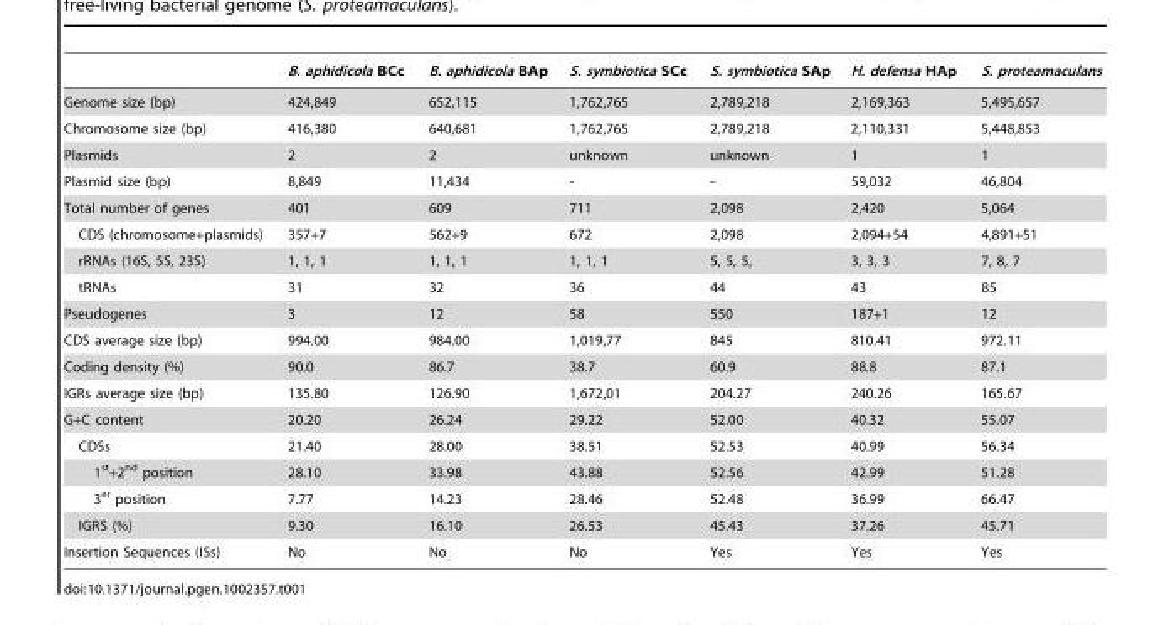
<table><thead><tr><td></td><td>B. aphidicola BCc</td><td>B. aphidicola BAp</td><td>S. symbiotica SCc</td><td>S. symbiotica SAp</td><td>H. defensa HAp</td><td>S. proteamaculans</td></tr></thead><tbody><tr><td>Genome size (bp)</td><td>424,849</td><td>652,115</td><td>1,762,765</td><td>2,789,218</td><td>2,169,363</td><td>5,495,657</td></tr><tr><td>Chromosome size (bp)</td><td>416,380</td><td>640,681</td><td>1,762,765</td><td>2,789,218</td><td>2,110,331</td><td>5,448,853</td></tr><tr><td>Plasmids</td><td>2</td><td>2</td><td>unknown</td><td>unknown</td><td>1</td><td>1</td></tr><tr><td>Plasmid size (bp)</td><td>8,849</td><td>11,434</td><td>-</td><td>-</td><td>59,032</td><td>46,804</td></tr><tr><td>Total number of genes</td><td>401</td><td>609</td><td>711</td><td>2,098</td><td>2,420</td><td>5,064</td></tr><tr><td>CDS (chromosome+plasmids)</td><td>357+7</td><td>562+9</td><td>672</td><td>2,098</td><td>2,094+54</td><td>4,891+51</td></tr><tr><td>rRNAs (16S, 5S, 23S)</td><td>1, 1, 1</td><td>1, 1, 1</td><td>1, 1, 1</td><td>5, 5, 5,</td><td>3, 3, 3</td><td>7, 8, 7</td></tr><tr><td>tRNAs</td><td>31</td><td>32</td><td>36</td><td>44</td><td>43</td><td>85</td></tr><tr><td>Pseudogenes</td><td>3</td><td>12</td><td>58</td><td>550</td><td>187+1</td><td>12</td></tr><tr><td>CDS average size (bp)</td><td>994.00</td><td>984.00</td><td>1,019,77</td><td>845</td><td>810.41</td><td>972.11</td></tr><tr><td>Coding density (%)</td><td>90.0</td><td>86.7</td><td>38.7</td><td>60.9</td><td>88.8</td><td>87.1</td></tr><tr><td>IGRs average size (bp)</td><td>135.80</td><td>126.90</td><td>1,672,01</td><td>204.27</td><td>240.26</td><td>165.67</td></tr><tr><td>G+C content</td><td>20.20</td><td>26.24</td><td>29.22</td><td>52.00</td><td>40.32</td><td>55.07</td></tr><tr><td>CDSs</td><td>21.40</td><td>28.00</td><td>38.51</td><td>52.53</td><td>40.99</td><td>56.34</td></tr><tr><td>1<sup>st</sup>+2<sup>nd</sup> position</td><td>28.10</td><td>33.98</td><td>43.88</td><td>52.56</td><td>42.99</td><td>51.28</td></tr><tr><td>3<sup>er</sup> position</td><td>7.77</td><td>14.23</td><td>28.46</td><td>52.48</td><td>36.99</td><td>66.47</td></tr><tr><td>IGRS (%)</td><td>9.30</td><td>16.10</td><td>26.53</td><td>45.43</td><td>37.26</td><td>45.71</td></tr><tr><td>Insertion Sequences (ISs)</td><td>No</td><td>No</td><td>No</td><td>Yes</td><td>Yes</td><td>Yes</td></tr></tbody></table>